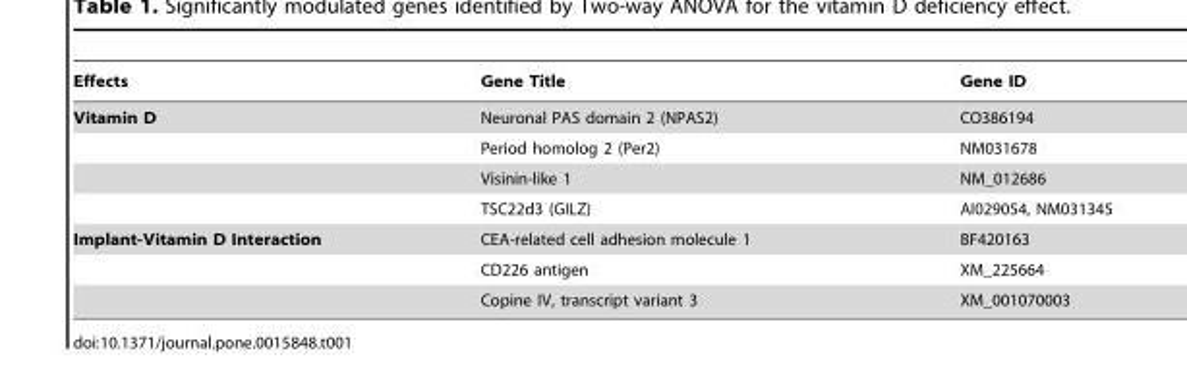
<table><thead><tr><td>Effects</td><td>Gene Title</td><td>Gene ID</td></tr></thead><tbody><tr><td rowspan="4">Vitamin D</td><td>Neuronal PAS domain 2 (NPAS2)</td><td>CO386194</td></tr><tr><td>Period homolog 2 (Per2)</td><td>NM031678</td></tr><tr><td>Visinin-like 1</td><td>NM_012686</td></tr><tr><td>TSC22d3 (GILZ)</td><td>AI029054, NM031345</td></tr><tr><td rowspan="3">Implant-Vitamin D Interaction</td><td>CEA-related cell adhesion molecule 1</td><td>BF420163</td></tr><tr><td>CD226 antigen</td><td>XM_225664</td></tr><tr><td>Copine IV, transcript variant 3</td><td>XM_001070003</td></tr></tbody></table>